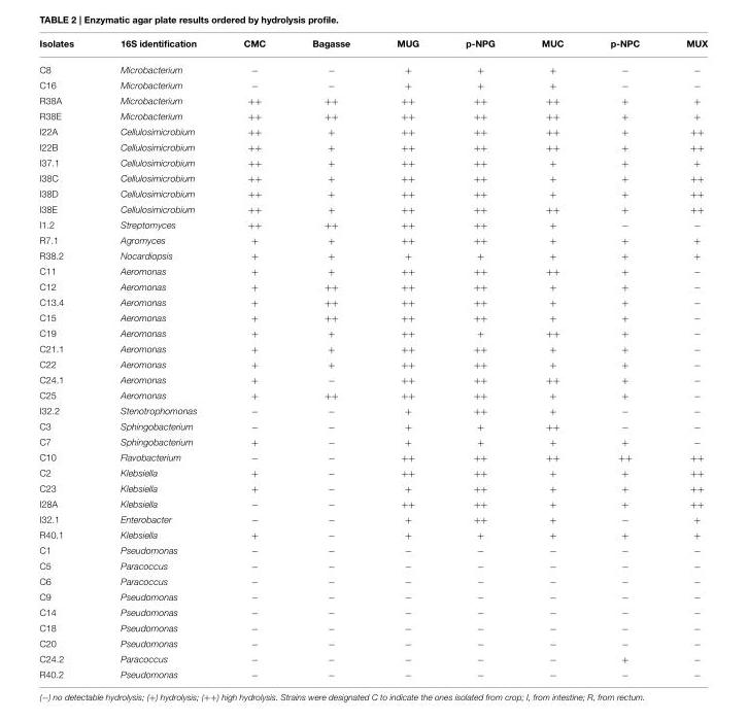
<table><thead><tr><td>Isolates</td><td>16S identification</td><td>CMC</td><td>Bagasse</td><td>MUG</td><td>p-NPG</td><td>MUC</td><td>p-NPC</td><td>MUX</td></tr></thead><tbody><tr><td>C8</td><td>Microbacterium</td><td>−</td><td>−</td><td>+</td><td>+</td><td>+</td><td>−</td><td>−</td></tr><tr><td>C16</td><td>Microbacterium</td><td>−</td><td>−</td><td>+</td><td>+</td><td>+</td><td>−</td><td>−</td></tr><tr><td>R38A</td><td>Microbacterium</td><td>++</td><td>++</td><td>++</td><td>++</td><td>++</td><td>+</td><td>+</td></tr><tr><td>R38E</td><td>Microbacterium</td><td>++</td><td>++</td><td>++</td><td>++</td><td>++</td><td>+</td><td>+</td></tr><tr><td>I22A</td><td>Cellulosimicrobium</td><td>++</td><td>+</td><td>++</td><td>++</td><td>++</td><td>+</td><td>++</td></tr><tr><td>I22B</td><td>Cellulosimicrobium</td><td>++</td><td>+</td><td>++</td><td>++</td><td>++</td><td>+</td><td>++</td></tr><tr><td>I37.1</td><td>Cellulosimicrobium</td><td>++</td><td>+</td><td>++</td><td>++</td><td>+</td><td>+</td><td>+</td></tr><tr><td>I38C</td><td>Cellulosimicrobium</td><td>++</td><td>+</td><td>++</td><td>++</td><td>+</td><td>+</td><td>++</td></tr><tr><td>I38D</td><td>Cellulosimicrobium</td><td>++</td><td>+</td><td>++</td><td>++</td><td>+</td><td>+</td><td>++</td></tr><tr><td>I38E</td><td>Cellulosimicrobium</td><td>++</td><td>+</td><td>++</td><td>++</td><td>++</td><td>+</td><td>++</td></tr><tr><td>I1.2</td><td>Streptomyces</td><td>++</td><td>++</td><td>++</td><td>++</td><td>+</td><td>−</td><td>−</td></tr><tr><td>R7.1</td><td>Agromyces</td><td>+</td><td>+</td><td>++</td><td>++</td><td>+</td><td>+</td><td>+</td></tr><tr><td>R38.2</td><td>Nocardiopsis</td><td>+</td><td>+</td><td>+</td><td>+</td><td>+</td><td>+</td><td>+</td></tr><tr><td>C11</td><td>Aeromonas</td><td>+</td><td>+</td><td>++</td><td>++</td><td>++</td><td>+</td><td>−</td></tr><tr><td>C12</td><td>Aeromonas</td><td>+</td><td>++</td><td>++</td><td>++</td><td>+</td><td>+</td><td>−</td></tr><tr><td>C13.4</td><td>Aeromonas</td><td>+</td><td>++</td><td>++</td><td>++</td><td>+</td><td>+</td><td>−</td></tr><tr><td>C15</td><td>Aeromonas</td><td>+</td><td>++</td><td>++</td><td>++</td><td>+</td><td>+</td><td>−</td></tr><tr><td>C19</td><td>Aeromonas</td><td>+</td><td>+</td><td>++</td><td>+</td><td>++</td><td>+</td><td>−</td></tr><tr><td>C21.1</td><td>Aeromonas</td><td>+</td><td>+</td><td>++</td><td>++</td><td>+</td><td>+</td><td>−</td></tr><tr><td>C22</td><td>Aeromonas</td><td>+</td><td>+</td><td>++</td><td>++</td><td>+</td><td>+</td><td>−</td></tr><tr><td>C24.1</td><td>Aeromonas</td><td>+</td><td>−</td><td>++</td><td>++</td><td>++</td><td>+</td><td>−</td></tr><tr><td>C25</td><td>Aeromonas</td><td>+</td><td>++</td><td>++</td><td>++</td><td>+</td><td>+</td><td>−</td></tr><tr><td>I32.2</td><td>Stenotrophomonas</td><td>−</td><td>−</td><td>+</td><td>++</td><td>+</td><td>−</td><td>−</td></tr><tr><td>C3</td><td>Sphingobacterium</td><td>−</td><td>−</td><td>+</td><td>+</td><td>++</td><td>−</td><td>−</td></tr><tr><td>C7</td><td>Sphingobacterium</td><td>+</td><td>−</td><td>+</td><td>+</td><td>+</td><td>+</td><td>−</td></tr><tr><td>C10</td><td>Flavobacterium</td><td>−</td><td>−</td><td>++</td><td>++</td><td>++</td><td>++</td><td>++</td></tr><tr><td>C2</td><td>Klebsiella</td><td>+</td><td>−</td><td>++</td><td>++</td><td>+</td><td>+</td><td>++</td></tr><tr><td>C23</td><td>Klebsiella</td><td>+</td><td>−</td><td>+</td><td>++</td><td>+</td><td>+</td><td>++</td></tr><tr><td>I28A</td><td>Klebsiella</td><td>−</td><td>−</td><td>++</td><td>++</td><td>+</td><td>+</td><td>++</td></tr><tr><td>I32.1</td><td>Enterobacter</td><td>−</td><td>−</td><td>+</td><td>++</td><td>+</td><td>−</td><td>+</td></tr><tr><td>R40.1</td><td>Klebsiella</td><td>+</td><td>−</td><td>+</td><td>+</td><td>+</td><td>+</td><td>+</td></tr><tr><td>C1</td><td>Pseudomonas</td><td>−</td><td>−</td><td>−</td><td>−</td><td>−</td><td>−</td><td>−</td></tr><tr><td>C5</td><td>Paracoccus</td><td>−</td><td>−</td><td>−</td><td>−</td><td>−</td><td>−</td><td>−</td></tr><tr><td>C6</td><td>Paracoccus</td><td>−</td><td>−</td><td>−</td><td>−</td><td>−</td><td>−</td><td>−</td></tr><tr><td>C9</td><td>Pseudomonas</td><td>−</td><td>−</td><td>−</td><td>−</td><td>−</td><td>−</td><td>−</td></tr><tr><td>C14</td><td>Pseudomonas</td><td>−</td><td>−</td><td>−</td><td>−</td><td>−</td><td>−</td><td>−</td></tr><tr><td>C18</td><td>Pseudomonas</td><td>−</td><td>−</td><td>−</td><td>−</td><td>−</td><td>−</td><td>−</td></tr><tr><td>C20</td><td>Pseudomonas</td><td>−</td><td>−</td><td>−</td><td>−</td><td>−</td><td>−</td><td>−</td></tr><tr><td>C24.2</td><td>Paracoccus</td><td>−</td><td>−</td><td>−</td><td>−</td><td>−</td><td>+</td><td>−</td></tr><tr><td>R40.2</td><td>Pseudomonas</td><td>−</td><td>−</td><td>−</td><td>−</td><td>−</td><td>−</td><td>−</td></tr></tbody></table>